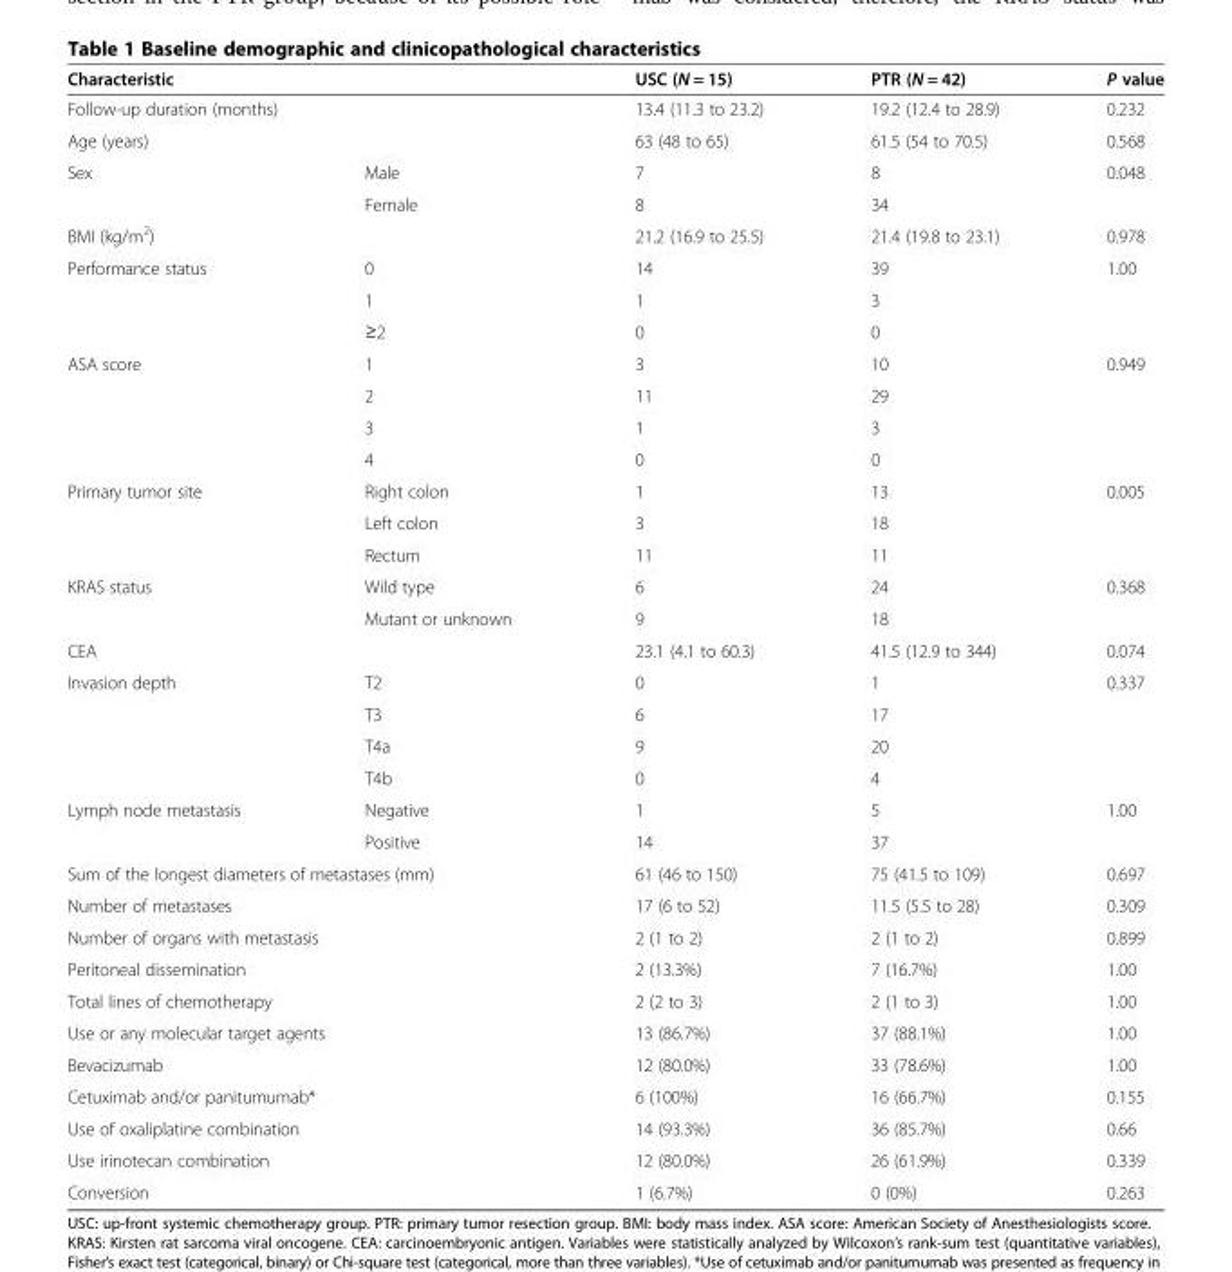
<table><thead><tr><td rowspan="3" colspan="2">Characteristic Follow-up duration (months) Age (years)</td><td rowspan="4">USC (N = 15) 13.4 (11.3 to 23.2) 63 (48 to 65) 7</td><td rowspan="4">PTR (N = 42) 19.2 (12.4 to 28.9) 61.5 (54 to 70.5) 8</td><td rowspan="4">P value 0.232 0.568 0.048</td></tr><tr></tr><tr></tr><tr><td>Sex</td><td>Male</td></tr></thead><tbody><tr><td></td><td>Female</td><td>8</td><td>34</td><td></td></tr><tr><td colspan="2">BMI (kg/m<sup>2</sup>)</td><td>21.2 (16.9 to 25.5)</td><td>21.4 (19.8 to 23.1)</td><td>0.978</td></tr><tr><td rowspan="3">Performance status</td><td>0</td><td>14</td><td>39</td><td>1.00</td></tr><tr><td>1</td><td>1</td><td>3</td><td></td></tr><tr><td>≥2</td><td>0</td><td>0</td><td></td></tr><tr><td rowspan="4">ASA score</td><td>1</td><td>3</td><td>10</td><td>0.949</td></tr><tr><td>2</td><td>11</td><td>29</td><td></td></tr><tr><td>3</td><td>1</td><td>3</td><td></td></tr><tr><td>4</td><td>0</td><td>0</td><td></td></tr><tr><td rowspan="3">Primary tumor site</td><td>Right colon</td><td>1</td><td>13</td><td>0.005</td></tr><tr><td>Left colon</td><td>3</td><td>18</td><td></td></tr><tr><td>Rectum</td><td>11</td><td>11</td><td></td></tr><tr><td rowspan="2">KRAS status</td><td>Wild type</td><td>6</td><td>24</td><td>0.368</td></tr><tr><td>Mutant or unknown</td><td>9</td><td>18</td><td></td></tr><tr><td colspan="2">CEA</td><td>23.1 (4.1 to 60.3)</td><td>41.5 (12.9 to 344)</td><td>0.074</td></tr><tr><td rowspan="4">Invasion depth</td><td>T2</td><td>0</td><td>1</td><td>0.337</td></tr><tr><td>T3</td><td>6</td><td>17</td><td></td></tr><tr><td>T4a</td><td>9</td><td>20</td><td></td></tr><tr><td>T4b</td><td>0</td><td>4</td><td></td></tr><tr><td rowspan="2">Lymph node metastasis</td><td>Negative</td><td>1</td><td>5</td><td>1.00</td></tr><tr><td>Positive</td><td>14</td><td>37</td><td></td></tr><tr><td colspan="2">Sum of the longest diameters of metastases (mm)</td><td>61 (46 to 150)</td><td>75 (41.5 to 109)</td><td>0.697</td></tr><tr><td colspan="2">Number of metastases</td><td>17 (6 to 52)</td><td>11.5 (5.5 to 28)</td><td>0.309</td></tr><tr><td colspan="2">Number of organs with metastasis</td><td>2 (1 to 2)</td><td>2 (1 to 2)</td><td>0.899</td></tr><tr><td colspan="2">Peritoneal dissemination</td><td>2 (13.3%)</td><td>7 (16.7%)</td><td>1.00</td></tr><tr><td colspan="2">Total lines of chemotherapy</td><td>2 (2 to 3)</td><td>2 (1 to 3)</td><td>1.00</td></tr><tr><td colspan="2">Use or any molecular target agents</td><td>13 (86.7%)</td><td>37 (88.1%)</td><td>1.00</td></tr><tr><td colspan="2">Bevacizumab</td><td>12 (80.0%)</td><td>33 (78.6%)</td><td>1.00</td></tr><tr><td colspan="2">Cetuximab and/or panitumumab*</td><td>6 (100%)</td><td>16 (66.7%)</td><td>0.155</td></tr><tr><td colspan="2">Use of oxaliplatine combination</td><td>14 (93.3%)</td><td>36 (85.7%)</td><td>0.66</td></tr><tr><td colspan="2">Use irinotecan combination</td><td>12 (80.0%)</td><td>26 (61.9%)</td><td>0.339</td></tr><tr><td colspan="2">Conversion</td><td>1 (6.7%)</td><td>0 (0%)</td><td>0.263</td></tr></tbody></table>